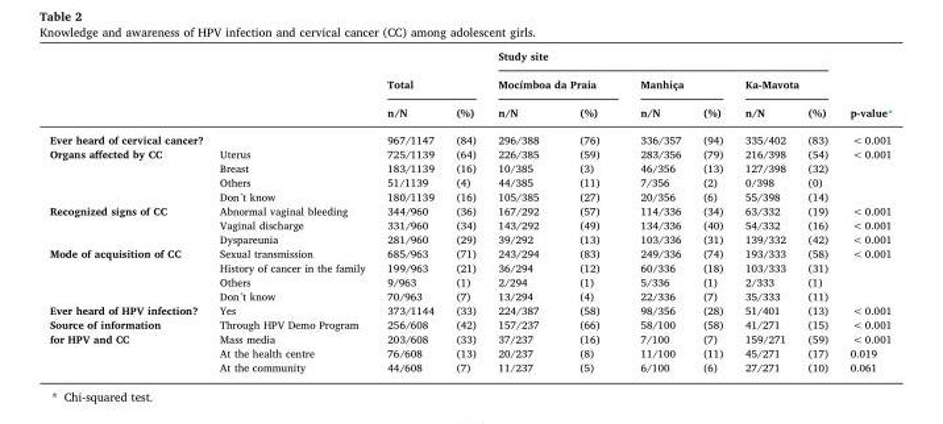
<table><thead><tr><td rowspan="3"></td><td rowspan="3"></td><td></td><td></td><td colspan="6">Study site</td><td rowspan="3">p-value*</td></tr><tr><td colspan="2">Total</td><td colspan="2">Mocímboa da Praia</td><td colspan="2">Manhiça</td><td colspan="2">Ka-Mavota</td></tr><tr><td>n/N</td><td>(%)</td><td>n/N</td><td>(%)</td><td>n/N</td><td>(%)</td><td>n/N</td><td>(%)</td></tr></thead><tbody><tr><td colspan="2">Ever heard of cervical cancer?</td><td>967/1147</td><td>(84)</td><td>296/388</td><td>(76)</td><td>336/357</td><td>(94)</td><td>335/402</td><td>(83)</td><td>&lt; 0.001</td></tr><tr><td rowspan="4">Organs affected by CC</td><td>Uterus</td><td>725/1139</td><td>(64)</td><td>226/385</td><td>(59)</td><td>283/356</td><td>(79)</td><td>216/398</td><td>(54)</td><td>&lt; 0.001</td></tr><tr><td>Breast</td><td>183/1139</td><td>(16)</td><td>10/385</td><td>(3)</td><td>46/356</td><td>(13)</td><td>127/398</td><td>(32)</td><td></td></tr><tr><td>Others</td><td>51/1139</td><td>(4)</td><td>44/385</td><td>(11)</td><td>7/356</td><td>(2)</td><td>0/398</td><td>(0)</td><td></td></tr><tr><td>Don´t know</td><td>180/1139</td><td>(16)</td><td>105/385</td><td>(27)</td><td>20/356</td><td>(6)</td><td>55/398</td><td>(14)</td><td></td></tr><tr><td rowspan="3">Recognized signs of CC</td><td>Abnormal vaginal bleeding</td><td>344/960</td><td>(36)</td><td>167/292</td><td>(57)</td><td>114/336</td><td>(34)</td><td>63/332</td><td>(19)</td><td>&lt; 0.001</td></tr><tr><td>Vaginal discharge</td><td>331/960</td><td>(34)</td><td>143/292</td><td>(49)</td><td>134/336</td><td>(40)</td><td>54/332</td><td>(16)</td><td>&lt; 0.001</td></tr><tr><td>Dyspareunia</td><td>281/960</td><td>(29)</td><td>39/292</td><td>(13)</td><td>103/336</td><td>(31)</td><td>139/332</td><td>(42)</td><td>&lt; 0.001</td></tr><tr><td rowspan="4">Mode of acquisition of CC</td><td>Sexual transmission</td><td>685/963</td><td>(71)</td><td>243/294</td><td>(83)</td><td>249/336</td><td>(74)</td><td>193/333</td><td>(58)</td><td>&lt; 0.001</td></tr><tr><td>History of cancer in the family</td><td>199/963</td><td>(21)</td><td>36/294</td><td>(12)</td><td>60/336</td><td>(18)</td><td>103/333</td><td>(31)</td><td></td></tr><tr><td>Others</td><td>9/963</td><td>(1)</td><td>2/294</td><td>(1)</td><td>5/336</td><td>(1)</td><td>2/333</td><td>(1)</td><td></td></tr><tr><td>Don´t know</td><td>70/963</td><td>(7)</td><td>13/294</td><td>(4)</td><td>22/336</td><td>(7)</td><td>35/333</td><td>(11)</td><td></td></tr><tr><td>Ever heard of HPV infection?</td><td>Yes</td><td>373/1144</td><td>(33)</td><td>224/387</td><td>(58)</td><td>98/356</td><td>(28)</td><td>51/401</td><td>(13)</td><td>&lt; 0.001</td></tr><tr><td>Source of information</td><td>Through HPV Demo Program</td><td>256/608</td><td>(42)</td><td>157/237</td><td>(66)</td><td>58/100</td><td>(58)</td><td>41/271</td><td>(15)</td><td>&lt; 0.001</td></tr><tr><td rowspan="3">for HPV and CC</td><td>Mass media</td><td>203/608</td><td>(33)</td><td>37/237</td><td>(16)</td><td>7/100</td><td>(7)</td><td>159/271</td><td>(59)</td><td>&lt; 0.001</td></tr><tr><td>At the health centre</td><td>76/608</td><td>(13)</td><td>20/237</td><td>(8)</td><td>11/100</td><td>(11)</td><td>45/271</td><td>(17)</td><td>0.019</td></tr><tr><td>At the community</td><td>44/608</td><td>(7)</td><td>11/237</td><td>(5)</td><td>6/100</td><td>(6)</td><td>27/271</td><td>(10)</td><td>0.061</td></tr></tbody></table>